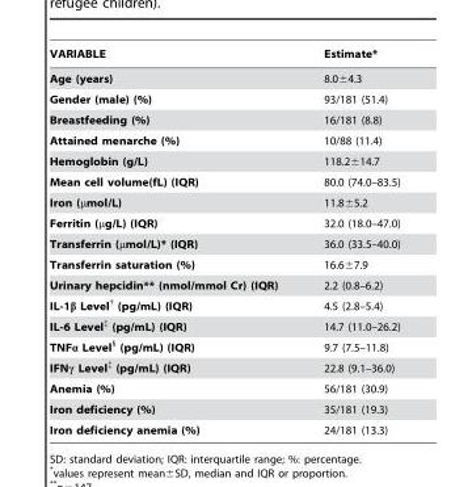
<table><thead><tr><td>VARIABLE</td><td>Estimate*</td></tr></thead><tbody><tr><td>Age (years)</td><td>8.0±4.3</td></tr><tr><td>Gender (male) (%)</td><td>93/181 (51.4)</td></tr><tr><td>Breastfeeding (%)</td><td>16/181 (8.8)</td></tr><tr><td>Attained menarche (%)</td><td>10/88 (11.4)</td></tr><tr><td>Hemoglobin (g/L)</td><td>118.2±14.7</td></tr><tr><td>Mean cell volume(fL) (IQR)</td><td>80.0 (74.0–83.5)</td></tr><tr><td>Iron (μmol/L)</td><td>11.8±5.2</td></tr><tr><td>Ferritin (μg/L) (IQR)</td><td>32.0 (18.0–47.0)</td></tr><tr><td>Transferrin (μmol/L)* (IQR)</td><td>36.0 (33.5–40.0)</td></tr><tr><td>Transferrin saturation (%)</td><td>16.6±7.9</td></tr><tr><td>Urinary hepcidin** (nmol/mmol Cr) (IQR)</td><td>2.2 (0.8–6.2)</td></tr><tr><td>IL-1β Level† (pg/mL) (IQR)</td><td>4.5 (2.8–5.4)</td></tr><tr><td>IL-6 Level‡ (pg/mL) (IQR)</td><td>14.7 (11.0–26.2)</td></tr><tr><td>TNFα Level§ (pg/mL) (IQR)</td><td>9.7 (7.5–11.8)</td></tr><tr><td>IFNγ Level‡ (pg/mL) (IQR)</td><td>22.8 (9.1–36.0)</td></tr><tr><td>Anemia (%)</td><td>56/181 (30.9)</td></tr><tr><td>Iron deficiency (%)</td><td>35/181 (19.3)</td></tr><tr><td>Iron deficiency anemia (%)</td><td>24/181 (13.3)</td></tr></tbody></table>